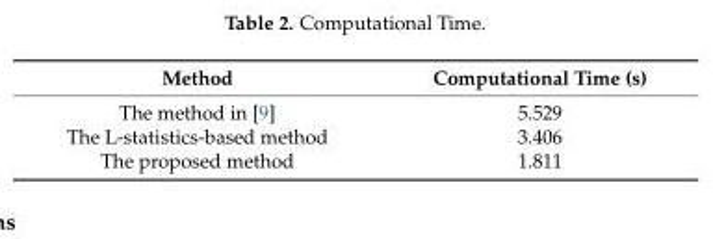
<table><thead><tr><td>Method</td><td>Computational Time (s)</td></tr></thead><tbody><tr><td>The method in [9]</td><td>5.529</td></tr><tr><td>The L-statistics-based method</td><td>3.406</td></tr><tr><td>The proposed method</td><td>1.811</td></tr></tbody></table>